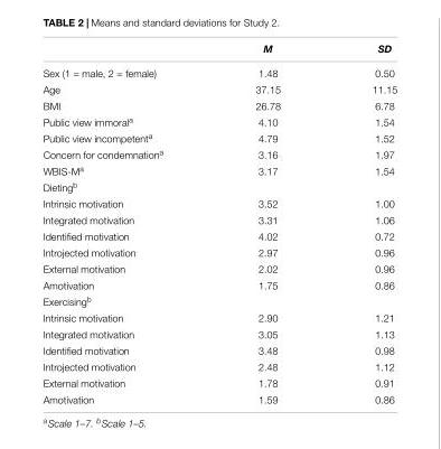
<table><thead><tr><td></td><td>M</td><td>SD</td></tr></thead><tbody><tr><td>Sex (1 = male, 2 = female)</td><td>1.48</td><td>0.50</td></tr><tr><td>Age</td><td>37.15</td><td>11.15</td></tr><tr><td>BMI</td><td>26.78</td><td>6.78</td></tr><tr><td>Public view immoral<sup>a</sup></td><td>4.10</td><td>1.54</td></tr><tr><td>Public view incompetent<sup>a</sup></td><td>4.79</td><td>1.52</td></tr><tr><td>Concern for condemnation<sup>a</sup></td><td>3.16</td><td>1.97</td></tr><tr><td>WBIS-M<sup>a</sup></td><td>3.17</td><td>1.54</td></tr><tr><td colspan="3">Dieting<sup>b</sup></td></tr><tr><td>Intrinsic motivation</td><td>3.52</td><td>1.00</td></tr><tr><td>Integrated motivation</td><td>3.31</td><td>1.06</td></tr><tr><td>Identified motivation</td><td>4.02</td><td>0.72</td></tr><tr><td>Introjected motivation</td><td>2.97</td><td>0.96</td></tr><tr><td>External motivation</td><td>2.02</td><td>0.96</td></tr><tr><td>Amotivation</td><td>1.75</td><td>0.86</td></tr><tr><td colspan="3">Exercising<sup>b</sup></td></tr><tr><td>Intrinsic motivation</td><td>2.90</td><td>1.21</td></tr><tr><td>Integrated motivation</td><td>3.05</td><td>1.13</td></tr><tr><td>Identified motivation</td><td>3.48</td><td>0.98</td></tr><tr><td>Introjected motivation</td><td>2.48</td><td>1.12</td></tr><tr><td>External motivation</td><td>1.78</td><td>0.91</td></tr><tr><td>Amotivation</td><td>1.59</td><td>0.86</td></tr></tbody></table>